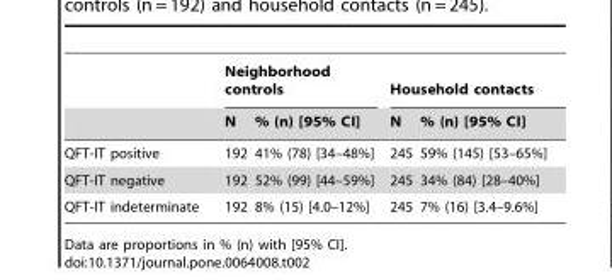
<table><thead><tr><td rowspan="2"></td><td colspan="2">Neighborhood controls</td><td colspan="2">Household contacts</td></tr><tr><td>N</td><td>% (n) [95% CI]</td><td>N</td><td>% (n) [95% CI]</td></tr></thead><tbody><tr><td>QFT-IT positive</td><td>192</td><td>41% (78) [34–48%]</td><td>245</td><td>59% (145) [53–65%]</td></tr><tr><td>QFT-IT negative</td><td>192</td><td>52% (99) [44–59%]</td><td>245</td><td>34% (84) [28–40%]</td></tr><tr><td>QFT-IT indeterminate</td><td>192</td><td>8% (15) [4.0–12%]</td><td>245</td><td>7% (16) [3.4–9.6%]</td></tr></tbody></table>